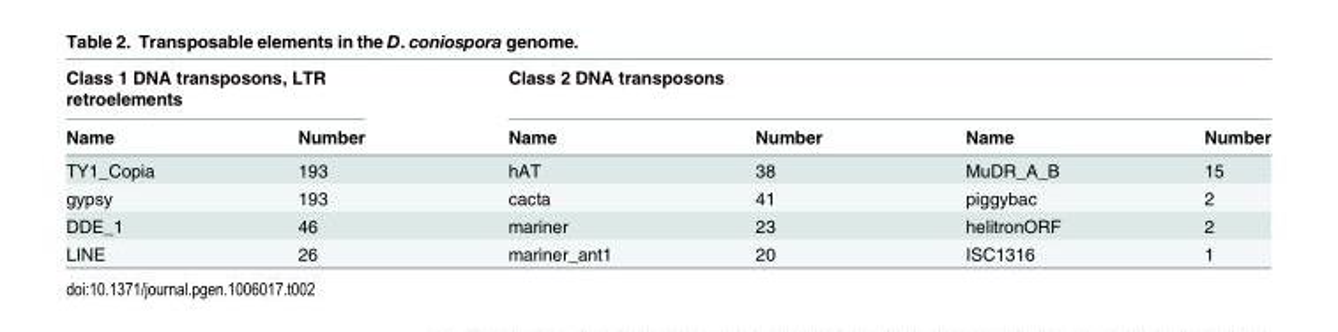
<table><thead><tr><td colspan="2">Class 1 DNA transposons, LTR retroelements</td><td colspan="4">Class 2 DNA transposons</td></tr><tr><td>Name</td><td>Number</td><td>Name</td><td>Number</td><td>Name</td><td>Number</td></tr></thead><tbody><tr><td>TY1_Copia</td><td>193</td><td>hAT</td><td>38</td><td>MuDR_A_B</td><td>15</td></tr><tr><td>gypsy</td><td>193</td><td>cacta</td><td>41</td><td>piggybac</td><td>2</td></tr><tr><td>DDE_1</td><td>46</td><td>mariner</td><td>23</td><td>helitronORF</td><td>2</td></tr><tr><td>LINE</td><td>26</td><td>mariner_ant1</td><td>20</td><td>ISC1316</td><td>1</td></tr></tbody></table>